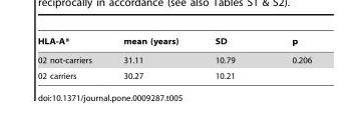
<table><thead><tr><td>HLA-A*</td><td>mean (years)</td><td>SD</td><td>p</td></tr></thead><tbody><tr><td>02 not-carriers</td><td>31.11</td><td>10.79</td><td>0.206</td></tr><tr><td>02 carriers</td><td>30.27</td><td>10.21</td><td></td></tr></tbody></table>